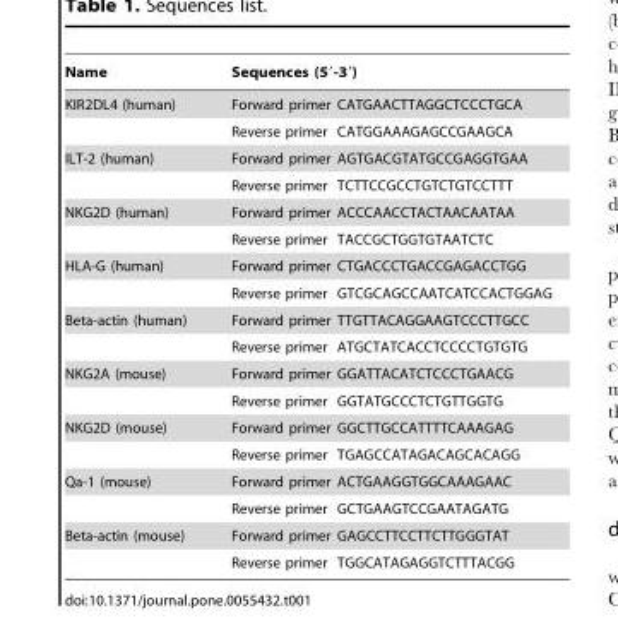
<table><thead><tr><td rowspan="2">Name KIR2DL4 (human)</td><td colspan="2">Sequences (5′-3′)</td></tr><tr><td>Forward primer</td><td>CATGAACTTAGGCTCCCTGCA</td></tr></thead><tbody><tr><td></td><td>Reverse primer</td><td>CATGGAAAGAGCCGAAGCA</td></tr><tr><td rowspan="2">ILT-2 (human)</td><td>Forward primer</td><td>AGTGACGTATGCCGAGGTGAA</td></tr><tr><td>Reverse primer</td><td>TCTTCCGCCTGTCTGTCCTTT</td></tr><tr><td rowspan="2">NKG2D (human)</td><td>Forward primer</td><td>ACCCAACCTACTAACAATAA</td></tr><tr><td>Reverse primer</td><td>TACCGCTGGTGTAATCTC</td></tr><tr><td rowspan="2">HLA-G (human)</td><td>Forward primer</td><td>CTGACCCTGACCGAGACCTGG</td></tr><tr><td>Reverse primer</td><td>GTCGCAGCCAATCATCCACTGGAG</td></tr><tr><td rowspan="2">Beta-actin (human)</td><td>Forward primer</td><td>TTGTTACAGGAAGTCCCTTGCC</td></tr><tr><td>Reverse primer</td><td>ATGCTATCACCTCCCCTGTGTG</td></tr><tr><td rowspan="2">NKG2A (mouse)</td><td>Forward primer</td><td>GGATTACATCTCCCTGAACG</td></tr><tr><td>Reverse primer</td><td>GGTATGCCCTCTGTTGGTG</td></tr><tr><td rowspan="2">NKG2D (mouse)</td><td>Forward primer</td><td>GGCTTGCCATTTTCAAAGAG</td></tr><tr><td>Reverse primer</td><td>TGAGCCATAGACAGCACAGG</td></tr><tr><td rowspan="2">Qa-1 (mouse)</td><td>Forward primer</td><td>ACTGAAGGTGGCAAAGAAC</td></tr><tr><td>Reverse primer</td><td>GCTGAAGTCCGAATAGATG</td></tr><tr><td rowspan="2">Beta-actin (mouse)</td><td>Forward primer</td><td>GAGCCTTCCTTCTTGGGTAT</td></tr><tr><td>Reverse primer</td><td>TGGCATAGAGGTCTTTACGG</td></tr></tbody></table>